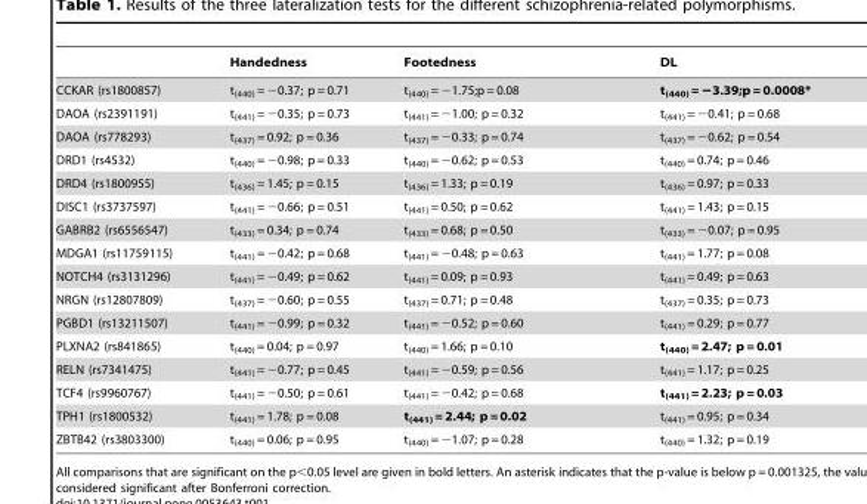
<table><thead><tr><td></td><td>Handedness</td><td>Footedness</td><td>DL</td></tr></thead><tbody><tr><td>CCKAR (rs1800857)</td><td>t<sub>(440)</sub> = −0.37; p = 0.71</td><td>t<sub>(440)</sub> = −1.75;p = 0.08</td><td>t<sub>(440)</sub> = −3.39;p = 0.0008*</td></tr><tr><td>DAOA (rs2391191)</td><td>t<sub>(441)</sub> = −0.35; p = 0.73</td><td>t<sub>(441)</sub> = −1.00; p = 0.32</td><td>t<sub>(441)</sub> = −0.41; p = 0.68</td></tr><tr><td>DAOA (rs778293)</td><td>t<sub>(437)</sub> = 0.92; p = 0.36</td><td>t<sub>(437)</sub> = −0.33; p = 0.74</td><td>t<sub>(437)</sub> = −0.62; p = 0.54</td></tr><tr><td>DRD1 (rs4532)</td><td>t<sub>(440)</sub> = −0.98; p = 0.33</td><td>t<sub>(440)</sub> = −0.62; p = 0.53</td><td>t<sub>(440)</sub> = 0.74; p = 0.46</td></tr><tr><td>DRD4 (rs1800955)</td><td>t<sub>(436)</sub> = 1.45; p = 0.15</td><td>t<sub>(436)</sub> = 1.33; p = 0.19</td><td>t<sub>(436)</sub> = 0.97; p = 0.33</td></tr><tr><td>DISC1 (rs3737597)</td><td>t<sub>(441)</sub> = −0.66; p = 0.51</td><td>t<sub>(441)</sub> = 0.50; p = 0.62</td><td>t<sub>(441)</sub> = 1.43; p = 0.15</td></tr><tr><td>GABRB2 (rs6556547)</td><td>t<sub>(433)</sub> = 0.34; p = 0.74</td><td>t<sub>(433)</sub> = 0.68; p = 0.50</td><td>t<sub>(433)</sub> = −0.07; p = 0.95</td></tr><tr><td>MDGA1 (rs11759115)</td><td>t<sub>(441)</sub> = −0.42; p = 0.68</td><td>t<sub>(441)</sub> = −0.48; p = 0.63</td><td>t<sub>(441)</sub> = 1.77; p = 0.08</td></tr><tr><td>NOTCH4 (rs3131296)</td><td>t<sub>(441)</sub> = −0.49; p = 0.62</td><td>t<sub>(441)</sub> = 0.09; p = 0.93</td><td>t<sub>(441)</sub> = 0.49; p = 0.63</td></tr><tr><td>NRGN (rs12807809)</td><td>t<sub>(437)</sub> = −0.60; p = 0.55</td><td>t<sub>(437)</sub> = 0.71; p = 0.48</td><td>t<sub>(437)</sub> = 0.35; p = 0.73</td></tr><tr><td>PGBD1 (rs13211507)</td><td>t<sub>(441)</sub> = −0.99; p = 0.32</td><td>t<sub>(441)</sub> = −0.52; p = 0.60</td><td>t<sub>(441)</sub> = 0.29; p = 0.77</td></tr><tr><td>PLXNA2 (rs841865)</td><td>t<sub>(440)</sub> = 0.04; p = 0.97</td><td>t<sub>(440)</sub> = 1.66; p = 0.10</td><td>t<sub>(440)</sub> = 2.47; p = 0.01</td></tr><tr><td>RELN (rs7341475)</td><td>t<sub>(441)</sub> = −0.77; p = 0.45</td><td>t<sub>(441)</sub> = −0.59; p = 0.56</td><td>t<sub>(441)</sub> = 1.17; p = 0.25</td></tr><tr><td>TCF4 (rs9960767)</td><td>t<sub>(441)</sub> = −0.50; p = 0.61</td><td>t<sub>(441)</sub> = −0.42; p = 0.68</td><td>t<sub>(441)</sub> = 2.23; p = 0.03</td></tr><tr><td>TPH1 (rs1800532)</td><td>t<sub>(441)</sub> = 1.78; p = 0.08</td><td>t<sub>(441)</sub> = 2.44; p = 0.02</td><td>t<sub>(441)</sub> = 0.95; p = 0.34</td></tr><tr><td>ZBTB42 (rs3803300)</td><td>t<sub>(440)</sub> = 0.06; p = 0.95</td><td>t<sub>(440)</sub> = −1.07; p = 0.28</td><td>t<sub>(440)</sub> = 1.32; p = 0.19</td></tr></tbody></table>